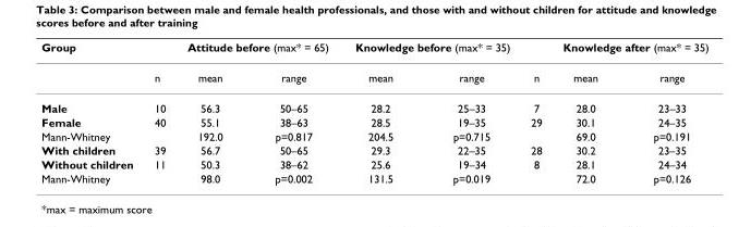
<table><thead><tr><td rowspan="2">Group</td><td rowspan="2">n</td><td colspan="2">Attitude before (max* = 65)</td><td colspan="2">Knowledge before (max* = 35)</td><td rowspan="2">n</td><td colspan="2">Knowledge after (max* = 35)</td></tr><tr><td>mean</td><td>range</td><td>mean</td><td>range</td><td>mean</td><td>range</td></tr></thead><tbody><tr><td>Male</td><td>10</td><td>56.3</td><td>50–65</td><td>28.2</td><td>25–33</td><td>7</td><td>28.0</td><td>23–33</td></tr><tr><td>Female</td><td>40</td><td>55.1</td><td>38–63</td><td>28.5</td><td>19–35</td><td>29</td><td>30.1</td><td>24–35</td></tr><tr><td>Mann-Whitney</td><td></td><td>192.0</td><td>p=0.817</td><td>204.5</td><td>p=0.715</td><td></td><td>69.0</td><td>p=0.191</td></tr><tr><td>With children</td><td>39</td><td>56.7</td><td>50–65</td><td>29.3</td><td>22–35</td><td>28</td><td>30.2</td><td>23–35</td></tr><tr><td>Without children</td><td>11</td><td>50.3</td><td>38–62</td><td>25.6</td><td>19–34</td><td>8</td><td>28.1</td><td>24–34</td></tr><tr><td>Mann-Whitney</td><td></td><td>98.0</td><td>p=0.002</td><td>131.5</td><td>p=0.019</td><td></td><td>72.0</td><td>p=0.126</td></tr></tbody></table>